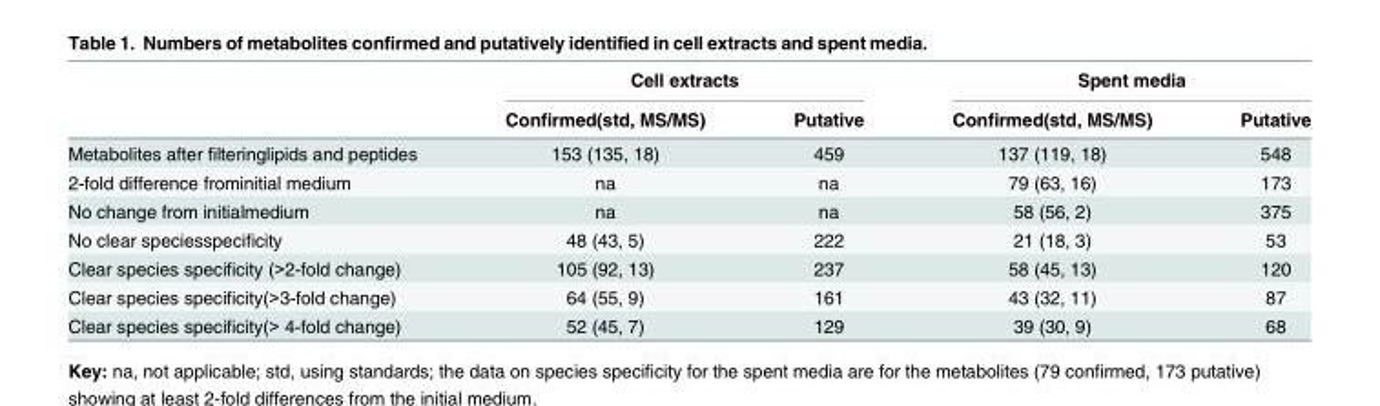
<table><thead><tr><td rowspan="2"></td><td colspan="2">Cell extracts</td><td colspan="2">Spent media</td></tr><tr><td>Confirmed(std, MS/MS)</td><td>Putative</td><td>Confirmed(std, MS/MS)</td><td>Putative</td></tr></thead><tbody><tr><td>Metabolites after filteringlipids and peptides</td><td>153 (135, 18)</td><td>459</td><td>137 (119, 18)</td><td>548</td></tr><tr><td>2-fold difference frominitial medium</td><td>na</td><td>na</td><td>79 (63, 16)</td><td>173</td></tr><tr><td>No change from initialmedium</td><td>na</td><td>na</td><td>58 (56, 2)</td><td>375</td></tr><tr><td>No clear speciesspecificity</td><td>48 (43, 5)</td><td>222</td><td>21 (18, 3)</td><td>53</td></tr><tr><td>Clear species specificity (&gt;2-fold change)</td><td>105 (92, 13)</td><td>237</td><td>58 (45, 13)</td><td>120</td></tr><tr><td>Clear species specificity(&gt;3-fold change)</td><td>64 (55, 9)</td><td>161</td><td>43 (32, 11)</td><td>87</td></tr><tr><td>Clear species specificity(&gt; 4-fold change)</td><td>52 (45, 7)</td><td>129</td><td>39 (30, 9)</td><td>68</td></tr></tbody></table>